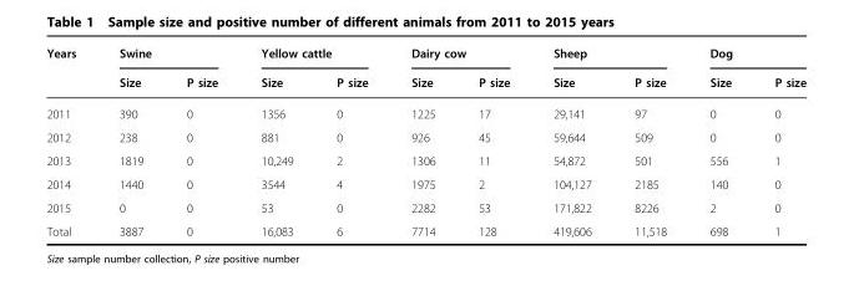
<table><thead><tr><td rowspan="2">Years</td><td colspan="2">Swine</td><td colspan="2">Yellow cattle</td><td colspan="2">Dairy cow</td><td colspan="2">Sheep</td><td colspan="2">Dog</td></tr><tr><td>Size</td><td>P size</td><td>Size</td><td>P size</td><td>Size</td><td>P size</td><td>Size</td><td>P size</td><td>Size</td><td>P size</td></tr></thead><tbody><tr><td>2011</td><td>390</td><td>0</td><td>1356</td><td>0</td><td>1225</td><td>17</td><td>29,141</td><td>97</td><td>0</td><td>0</td></tr><tr><td>2012</td><td>238</td><td>0</td><td>881</td><td>0</td><td>926</td><td>45</td><td>59,644</td><td>509</td><td>0</td><td>0</td></tr><tr><td>2013</td><td>1819</td><td>0</td><td>10,249</td><td>2</td><td>1306</td><td>11</td><td>54,872</td><td>501</td><td>556</td><td>1</td></tr><tr><td>2014</td><td>1440</td><td>0</td><td>3544</td><td>4</td><td>1975</td><td>2</td><td>104,127</td><td>2185</td><td>140</td><td>0</td></tr><tr><td>2015</td><td>0</td><td>0</td><td>53</td><td>0</td><td>2282</td><td>53</td><td>171,822</td><td>8226</td><td>2</td><td>0</td></tr><tr><td>Total</td><td>3887</td><td>0</td><td>16,083</td><td>6</td><td>7714</td><td>128</td><td>419,606</td><td>11,518</td><td>698</td><td>1</td></tr></tbody></table>